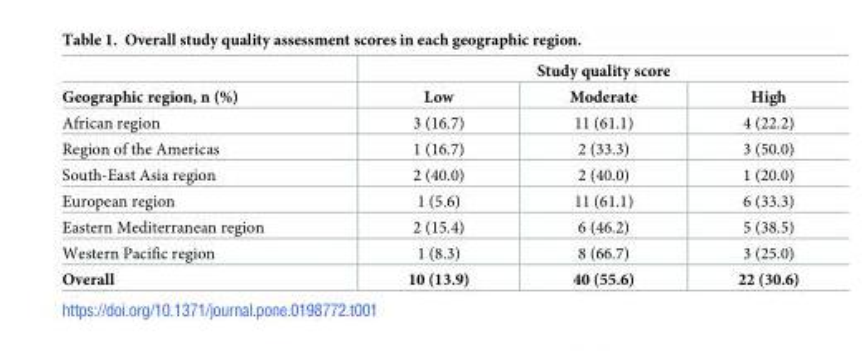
<table><thead><tr><td rowspan="2">Geographic region, n (%)</td><td colspan="3">Study quality score</td></tr><tr><td>Low</td><td>Moderate</td><td>High</td></tr></thead><tbody><tr><td>African region</td><td>3 (16.7)</td><td>11 (61.1)</td><td>4 (22.2)</td></tr><tr><td>Region of the Americas</td><td>1 (16.7)</td><td>2 (33.3)</td><td>3 (50.0)</td></tr><tr><td>South-East Asia region</td><td>2 (40.0)</td><td>2 (40.0)</td><td>1 (20.0)</td></tr><tr><td>European region</td><td>1 (5.6)</td><td>11 (61.1)</td><td>6 (33.3)</td></tr><tr><td>Eastern Mediterranean region</td><td>2 (15.4)</td><td>6 (46.2)</td><td>5 (38.5)</td></tr><tr><td>Western Pacific region</td><td>1 (8.3)</td><td>8 (66.7)</td><td>3 (25.0)</td></tr><tr><td>Overall</td><td>10 (13.9)</td><td>40 (55.6)</td><td>22 (30.6)</td></tr></tbody></table>